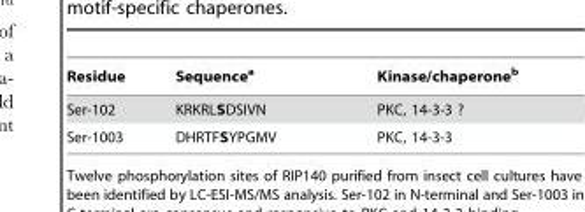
<table><thead><tr><td>Residue</td><td>Sequence<sup>a</sup></td><td>Kinase/chaperone<sup>b</sup></td></tr></thead><tbody><tr><td>Ser-102</td><td>KRKRLSDSIVN</td><td>PKC, 14-3-3 ?</td></tr><tr><td>Ser-1003</td><td>DHRTFSYPGMV</td><td>PKC, 14-3-3</td></tr></tbody></table>